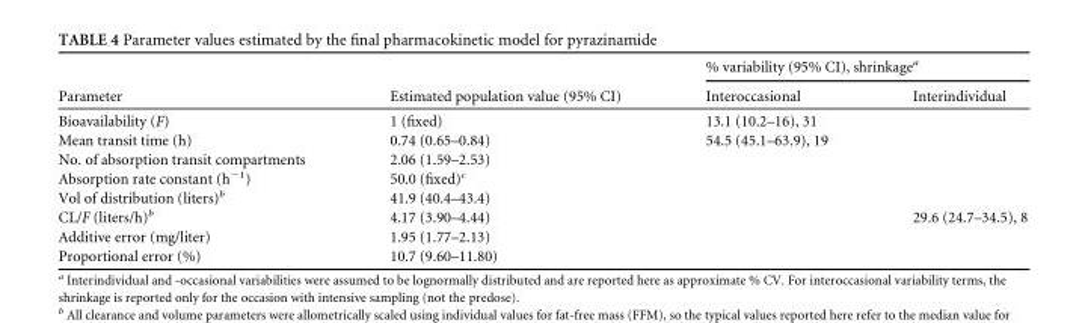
<table><thead><tr><td rowspan="2">Parameter</td><td rowspan="2">Estimated population value (95% CI)</td><td colspan="2">% variability (95% CI), shrinkage<sup>a</sup></td></tr><tr><td>Interoccasional</td><td>Interindividual</td></tr></thead><tbody><tr><td>Bioavailability (F)</td><td>1 (fixed)</td><td>13.1 (10.2–16), 31</td><td></td></tr><tr><td>Mean transit time (h)</td><td>0.74 (0.65–0.84)</td><td>54.5 (45.1–63.9), 19</td><td></td></tr><tr><td>No. of absorption transit compartments</td><td>2.06 (1.59–2.53)</td><td></td><td></td></tr><tr><td>Absorption rate constant (h<sup>−1</sup>)</td><td>50.0 (fixed)<sup>c</sup></td><td></td><td></td></tr><tr><td>Vol of distribution (liters)<sup>b</sup></td><td>41.9 (40.4–43.4)</td><td></td><td></td></tr><tr><td>CL/F (liters/h)<sup>b</sup></td><td>4.17 (3.90–4.44)</td><td></td><td>29.6 (24.7–34.5), 8</td></tr><tr><td>Additive error (mg/liter)</td><td>1.95 (1.77–2.13)</td><td></td><td></td></tr><tr><td>Proportional error (%)</td><td>10.7 (9.60–11.80)</td><td></td><td></td></tr></tbody></table>